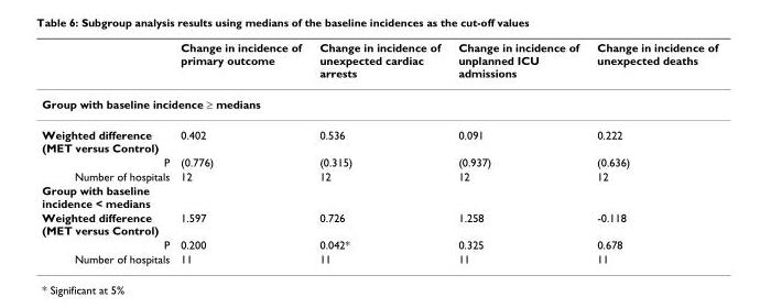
<table><thead><tr><td></td><td>Change in incidence of primary outcome</td><td>Change in incidence of unexpected cardiac arrests</td><td>Change in incidence of unplanned ICU admissions</td><td>Change in incidence of unexpected deaths</td></tr></thead><tbody><tr><td colspan="5">Group with baseline incidence ≥ medians</td></tr><tr><td>Weighted difference (MET versus Control)</td><td>0.402</td><td>0.536</td><td>0.091</td><td>0.222</td></tr><tr><td>P</td><td>(0.776)</td><td>(0.315)</td><td>(0.937)</td><td>(0.636)</td></tr><tr><td>Number of hospitals</td><td>12</td><td>12</td><td>12</td><td>12</td></tr><tr><td colspan="5">Group with baseline incidence &lt; medians</td></tr><tr><td>Weighted difference (MET versus Control)</td><td>1.597</td><td>0.726</td><td>1.258</td><td>-0.118</td></tr><tr><td>P</td><td>0.200</td><td>0.042*</td><td>0.325</td><td>0.678</td></tr><tr><td>Number of hospitals</td><td>11</td><td>11</td><td>11</td><td>11</td></tr></tbody></table>